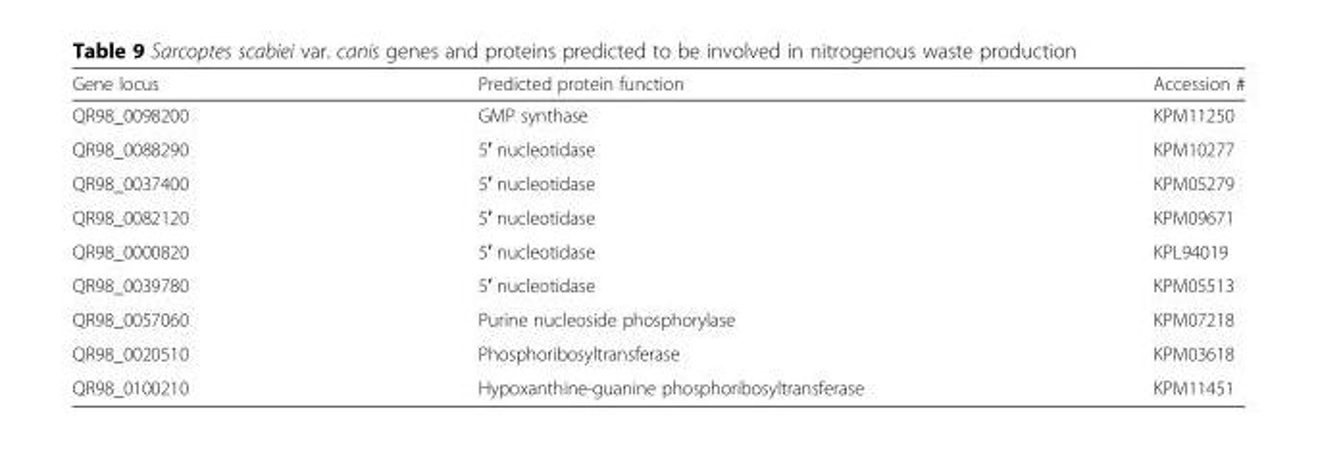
<table><thead><tr><td>Gene locus</td><td>Predicted protein function</td><td>Accession #</td></tr></thead><tbody><tr><td>QR98_0098200</td><td>GMP synthase</td><td>KPM11250</td></tr><tr><td>QR98_0088290</td><td>5′ nucleotidase</td><td>KPM10277</td></tr><tr><td>QR98_0037400</td><td>5′ nucleotidase</td><td>KPM05279</td></tr><tr><td>QR98_0082120</td><td>5′ nucleotidase</td><td>KPM09671</td></tr><tr><td>QR98_0000820</td><td>5′ nucleotidase</td><td>KPL94019</td></tr><tr><td>QR98_0039780</td><td>5′ nucleotidase</td><td>KPM05513</td></tr><tr><td>QR98_0057060</td><td>Purine nucleoside phosphorylase</td><td>KPM07218</td></tr><tr><td>QR98_0020510</td><td>Phosphoribosyltransferase</td><td>KPM03618</td></tr><tr><td>QR98_0100210</td><td>Hypoxanthine-guanine phosphoribosyltransferase</td><td>KPM11451</td></tr></tbody></table>